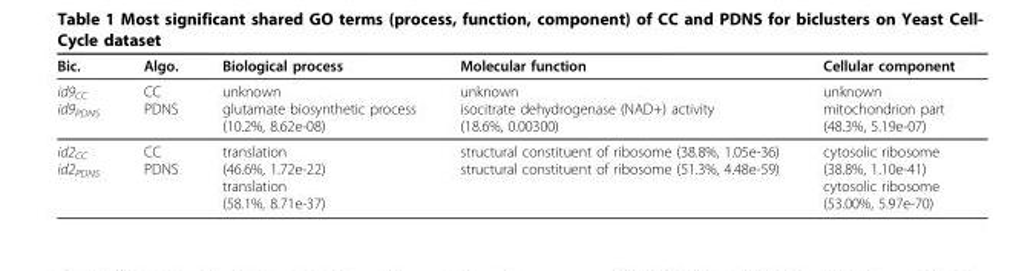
<table><thead><tr><td>Bic.</td><td>Algo.</td><td>Biological process</td><td>Molecular function</td><td>Cellular component</td></tr></thead><tbody><tr><td>id9<sub>CC</sub> id9<sub>PDNS</sub></td><td>CC PDNS</td><td>unknown glutamate biosynthetic process (10.2%, 8.62e-08)</td><td>unknown isocitrate dehydrogenase (NAD+) activity (18.6%, 0.00300)</td><td>unknown mitochondrion part (48.3%, 5.19e-07)</td></tr><tr><td>id2<sub>CC</sub> id2<sub>PDNS</sub></td><td>CC PDNS</td><td>translation (46.6%, 1.72e-22) translation (58.1%, 8.71e-37)</td><td>structural constituent of ribosome (38.8%, 1.05e-36) structural constituent of ribosome (51.3%, 4.48e-59)</td><td>cytosolic ribosome (38.8%, 1.10e-41) cytosolic ribosome (53.00%, 5.97e-70)</td></tr></tbody></table>